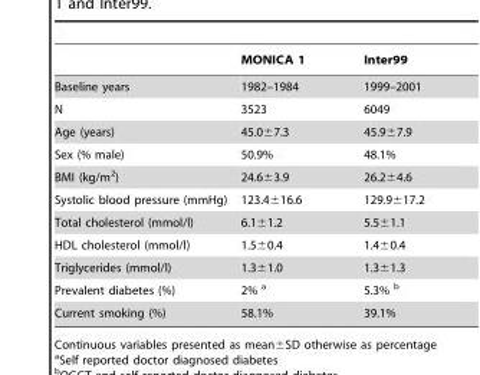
<table><thead><tr><td></td><td>MONICA 1</td><td>Inter99</td></tr></thead><tbody><tr><td>Baseline years</td><td>1982–1984</td><td>1999–2001</td></tr><tr><td>N</td><td>3523</td><td>6049</td></tr><tr><td>Age (years)</td><td>45.0±7.3</td><td>45.9±7.9</td></tr><tr><td>Sex (% male)</td><td>50.9%</td><td>48.1%</td></tr><tr><td>BMI (kg/m<sup>2</sup>)</td><td>24.6±3.9</td><td>26.2±4.6</td></tr><tr><td>Systolic blood pressure (mmHg)</td><td>123.4±16.6</td><td>129.9±17.2</td></tr><tr><td>Total cholesterol (mmol/l)</td><td>6.1±1.2</td><td>5.5±1.1</td></tr><tr><td>HDL cholesterol (mmol/l)</td><td>1.5±0.4</td><td>1.4±0.4</td></tr><tr><td>Triglycerides (mmol/l)</td><td>1.3±1.0</td><td>1.3±1.3</td></tr><tr><td>Prevalent diabetes (%)</td><td>2% a</td><td>5.3% b</td></tr><tr><td>Current smoking (%)</td><td>58.1%</td><td>39.1%</td></tr></tbody></table>